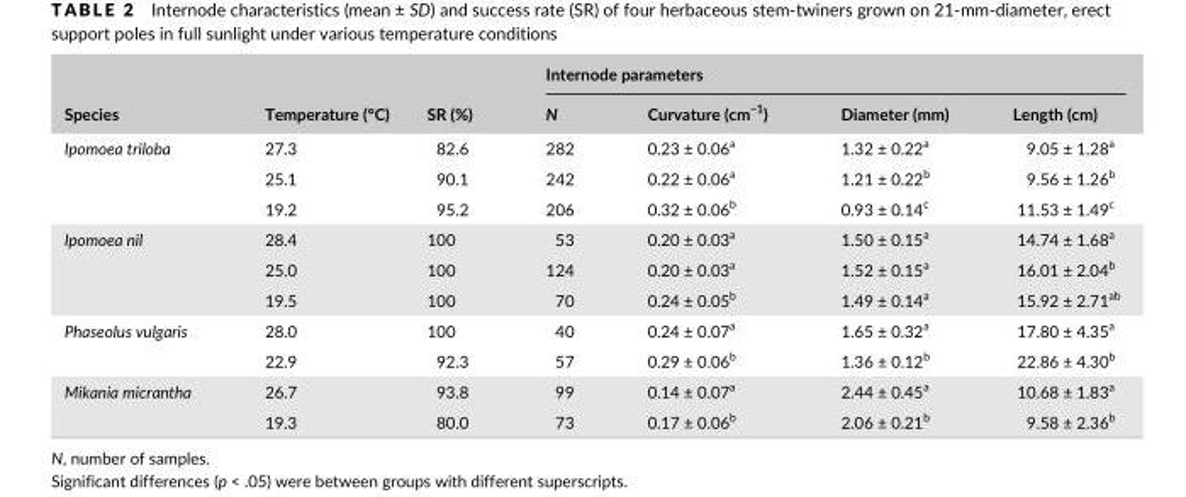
<table><thead><tr><td rowspan="2">Species</td><td rowspan="2">Temperature (°C)</td><td rowspan="2">SR (%)</td><td colspan="4">Internode parameters</td></tr><tr><td>N</td><td>Curvature (cm<sup>−1</sup>)</td><td>Diameter (mm)</td><td>Length (cm)</td></tr></thead><tbody><tr><td rowspan="3">Ipomoea triloba</td><td>27.3</td><td>82.6</td><td>282</td><td>0.23 ± 0.06<sup>a</sup></td><td>1.32 ± 0.22<sup>a</sup></td><td>9.05 ± 1.28<sup>a</sup></td></tr><tr><td>25.1</td><td>90.1</td><td>242</td><td>0.22 ± 0.06<sup>a</sup></td><td>1.21 ± 0.22<sup>b</sup></td><td>9.56 ± 1.26<sup>b</sup></td></tr><tr><td>19.2</td><td>95.2</td><td>206</td><td>0.32 ± 0.06<sup>b</sup></td><td>0.93 ± 0.14<sup>c</sup></td><td>11.53 ± 1.49<sup>c</sup></td></tr><tr><td rowspan="3">Ipomoea nil</td><td>28.4</td><td>100</td><td>53</td><td>0.20 ± 0.03<sup>a</sup></td><td>1.50 ± 0.15<sup>a</sup></td><td>14.74 ± 1.68<sup>a</sup></td></tr><tr><td>25.0</td><td>100</td><td>124</td><td>0.20 ± 0.03<sup>a</sup></td><td>1.52 ± 0.15<sup>a</sup></td><td>16.01 ± 2.04<sup>b</sup></td></tr><tr><td>19.5</td><td>100</td><td>70</td><td>0.24 ± 0.05<sup>b</sup></td><td>1.49 ± 0.14<sup>a</sup></td><td>15.92 ± 2.71<sup>ab</sup></td></tr><tr><td rowspan="2">Phaseolus vulgaris</td><td>28.0</td><td>100</td><td>40</td><td>0.24 ± 0.07<sup>a</sup></td><td>1.65 ± 0.32<sup>a</sup></td><td>17.80 ± 4.35<sup>a</sup></td></tr><tr><td>22.9</td><td>92.3</td><td>57</td><td>0.29 ± 0.06<sup>b</sup></td><td>1.36 ± 0.12<sup>b</sup></td><td>22.86 ± 4.30<sup>b</sup></td></tr><tr><td rowspan="2">Mikania micrantha</td><td>26.7</td><td>93.8</td><td>99</td><td>0.14 ± 0.07<sup>a</sup></td><td>2.44 ± 0.45<sup>a</sup></td><td>10.68 ± 1.83<sup>a</sup></td></tr><tr><td>19.3</td><td>80.0</td><td>73</td><td>0.17 ± 0.06<sup>b</sup></td><td>2.06 ± 0.21<sup>b</sup></td><td>9.58 ± 2.36<sup>b</sup></td></tr></tbody></table>